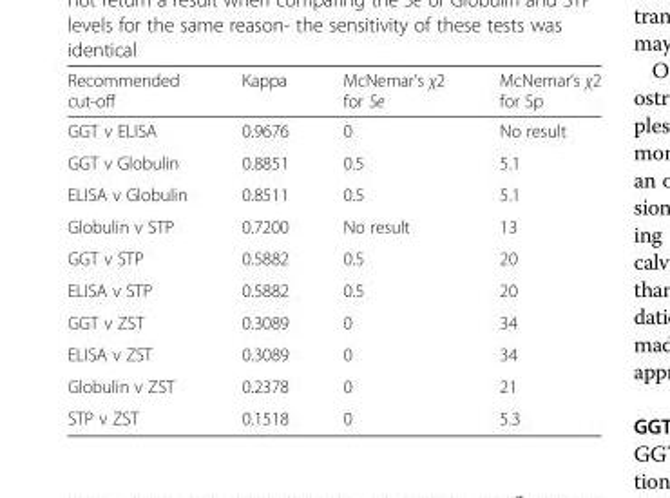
<table><thead><tr><td>Recommended cut-off</td><td>Kappa</td><td>McNemar’s χ2 for Se</td><td>McNemar’s χ2 for Sp</td></tr></thead><tbody><tr><td>GGT v ELISA</td><td>0.9676</td><td>0</td><td>No result</td></tr><tr><td>GGT v Globulin</td><td>0.8851</td><td>0.5</td><td>5.1</td></tr><tr><td>ELISA v Globulin</td><td>0.8511</td><td>0.5</td><td>5.1</td></tr><tr><td>Globulin v STP</td><td>0.7200</td><td>No result</td><td>13</td></tr><tr><td>GGT v STP</td><td>0.5882</td><td>0.5</td><td>20</td></tr><tr><td>ELISA v STP</td><td>0.5882</td><td>0.5</td><td>20</td></tr><tr><td>GGT v ZST</td><td>0.3089</td><td>0</td><td>34</td></tr><tr><td>ELISA v ZST</td><td>0.3089</td><td>0</td><td>34</td></tr><tr><td>Globulin v ZST</td><td>0.2378</td><td>0</td><td>21</td></tr><tr><td>STP v ZST</td><td>0.1518</td><td>0</td><td>5.3</td></tr></tbody></table>